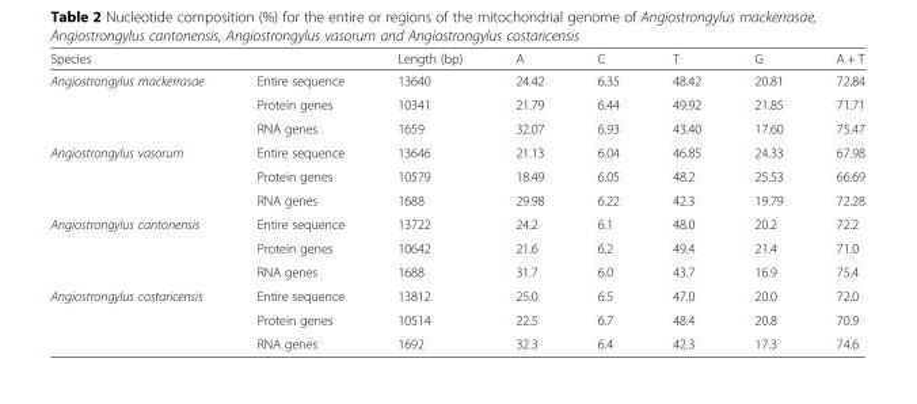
<table><thead><tr><td>Species</td><td></td><td>Length (bp)</td><td>A</td><td>C</td><td>T</td><td>G</td><td>A + T</td></tr></thead><tbody><tr><td rowspan="3">Angiostrongylus mackerrasae</td><td>Entire sequence</td><td>13640</td><td>24.42</td><td>6.35</td><td>48.42</td><td>20.81</td><td>72.84</td></tr><tr><td>Protein genes</td><td>10341</td><td>21.79</td><td>6.44</td><td>49.92</td><td>21.85</td><td>71.71</td></tr><tr><td>RNA genes</td><td>1659</td><td>32.07</td><td>6.93</td><td>43.40</td><td>17.60</td><td>75.47</td></tr><tr><td rowspan="3">Angiostrongylus vasorum</td><td>Entire sequence</td><td>13646</td><td>21.13</td><td>6.04</td><td>46.85</td><td>24.33</td><td>67.98</td></tr><tr><td>Protein genes</td><td>10579</td><td>18.49</td><td>6.05</td><td>48.2</td><td>25.53</td><td>66.69</td></tr><tr><td>RNA genes</td><td>1688</td><td>29.98</td><td>6.22</td><td>42.3</td><td>19.79</td><td>72.28</td></tr><tr><td rowspan="3">Angiostrongylus cantonensis</td><td>Entire sequence</td><td>13722</td><td>24.2</td><td>6.1</td><td>48.0</td><td>20.2</td><td>72.2</td></tr><tr><td>Protein genes</td><td>10642</td><td>21.6</td><td>6.2</td><td>49.4</td><td>21.4</td><td>71.0</td></tr><tr><td>RNA genes</td><td>1688</td><td>31.7</td><td>6.0</td><td>43.7</td><td>16.9</td><td>75.4</td></tr><tr><td rowspan="3">Angiostrongylus costaricensis</td><td>Entire sequence</td><td>13812</td><td>25.0</td><td>6.5</td><td>47.0</td><td>20.0</td><td>72.0</td></tr><tr><td>Protein genes</td><td>10514</td><td>22.5</td><td>6.7</td><td>48.4</td><td>20.8</td><td>70.9</td></tr><tr><td>RNA genes</td><td>1692</td><td>32.3</td><td>6.4</td><td>42.3</td><td>17.3</td><td>74.6</td></tr></tbody></table>